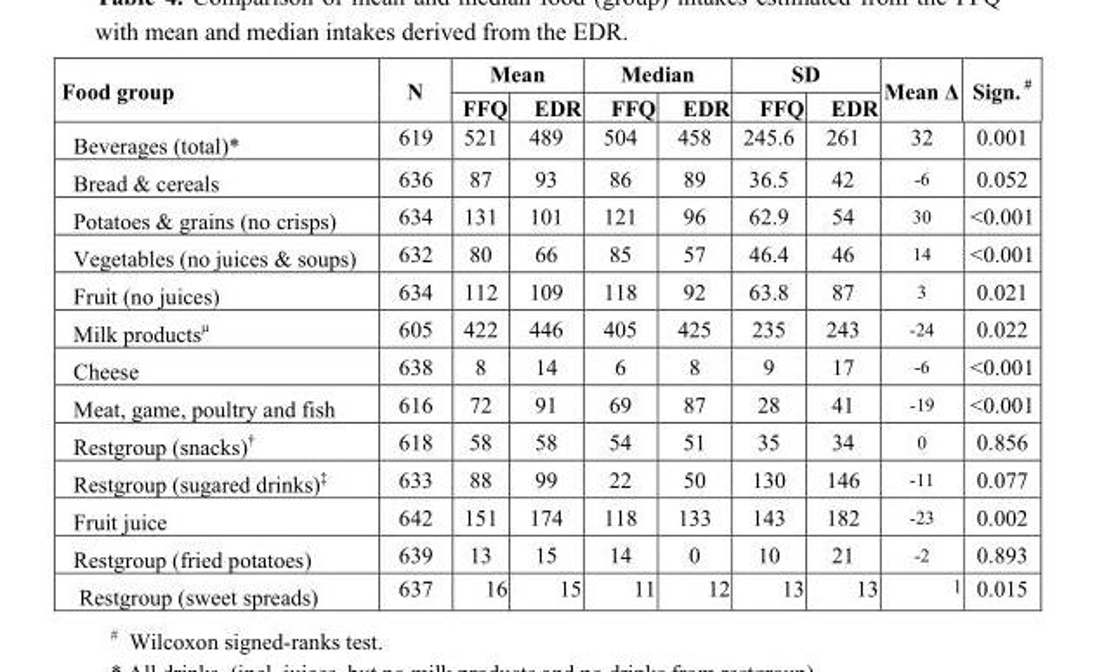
<table><thead><tr><td rowspan="2">Food group</td><td rowspan="2">N</td><td colspan="2">Mean</td><td colspan="2">Median</td><td colspan="2">SD</td><td rowspan="2">Mean Δ</td><td rowspan="2">Sign. #</td></tr><tr><td>FFQ</td><td>EDR</td><td>FFQ</td><td>EDR</td><td>FFQ</td><td>EDR</td></tr></thead><tbody><tr><td>Beverages (total)*</td><td>619</td><td>521</td><td>489</td><td>504</td><td>458</td><td>245.6</td><td>261</td><td>32</td><td>0.001</td></tr><tr><td>Bread &amp; cereals</td><td>636</td><td>87</td><td>93</td><td>86</td><td>89</td><td>36.5</td><td>42</td><td>-6</td><td>0.052</td></tr><tr><td>Potatoes &amp; grains (no crisps)</td><td>634</td><td>131</td><td>101</td><td>121</td><td>96</td><td>62.9</td><td>54</td><td>30</td><td>&lt;0.001</td></tr><tr><td>Vegetables (no juices &amp; soups)</td><td>632</td><td>80</td><td>66</td><td>85</td><td>57</td><td>46.4</td><td>46</td><td>14</td><td>&lt;0.001</td></tr><tr><td>Fruit (no juices)</td><td>634</td><td>112</td><td>109</td><td>118</td><td>92</td><td>63.8</td><td>87</td><td>3</td><td>0.021</td></tr><tr><td>Milk productsµ</td><td>605</td><td>422</td><td>446</td><td>405</td><td>425</td><td>235</td><td>243</td><td>-24</td><td>0.022</td></tr><tr><td>Cheese</td><td>638</td><td>8</td><td>14</td><td>6</td><td>8</td><td>9</td><td>17</td><td>-6</td><td>&lt;0.001</td></tr><tr><td>Meat, game, poultry and fish</td><td>616</td><td>72</td><td>91</td><td>69</td><td>87</td><td>28</td><td>41</td><td>-19</td><td>&lt;0.001</td></tr><tr><td>Restgroup (snacks)†</td><td>618</td><td>58</td><td>58</td><td>54</td><td>51</td><td>35</td><td>34</td><td>0</td><td>0.856</td></tr><tr><td>Restgroup (sugared drinks)‡</td><td>633</td><td>88</td><td>99</td><td>22</td><td>50</td><td>130</td><td>146</td><td>-11</td><td>0.077</td></tr><tr><td>Fruit juice</td><td>642</td><td>151</td><td>174</td><td>118</td><td>133</td><td>143</td><td>182</td><td>-23</td><td>0.002</td></tr><tr><td>Restgroup (fried potatoes)</td><td>639</td><td>13</td><td>15</td><td>14</td><td>0</td><td>10</td><td>21</td><td>-2</td><td>0.893</td></tr><tr><td>Restgroup (sweet spreads)</td><td>637</td><td>16</td><td>15</td><td>11</td><td>12</td><td>13</td><td>13</td><td>1</td><td>0.015</td></tr></tbody></table>